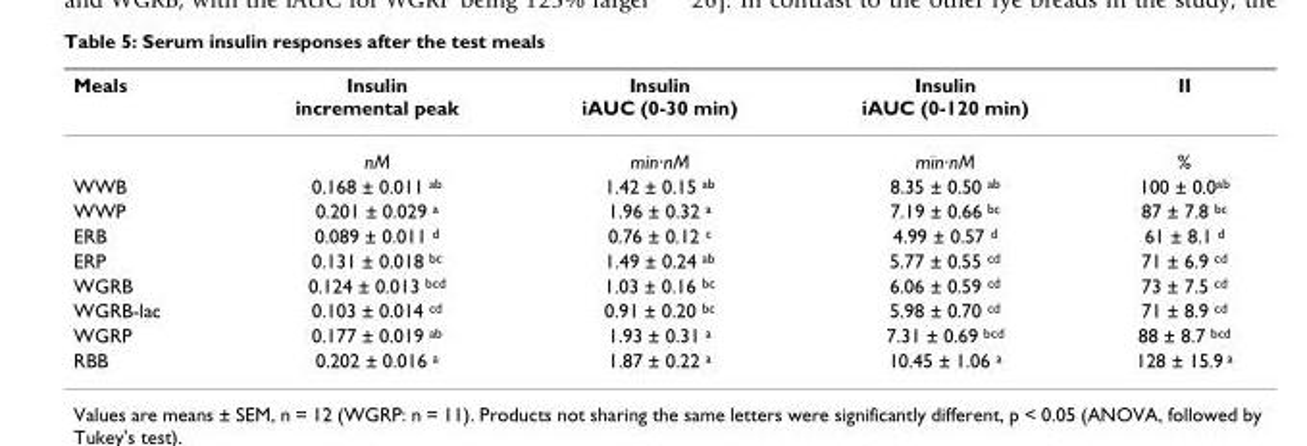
<table><thead><tr><td>Meals</td><td>Insulin incremental peak</td><td>Insulin iAUC (0-30 min)</td><td>Insulin iAUC (0-120 min)</td><td>II</td></tr></thead><tbody><tr><td></td><td>nM</td><td>min·nM</td><td>min·nM</td><td>%</td></tr><tr><td>WWB</td><td>0.168 ± 0.011 <sup>ab</sup></td><td>1.42 ± 0.15 <sup>ab</sup></td><td>8.35 ± 0.50 <sup>ab</sup></td><td>100 ± 0.0<sup>ab</sup></td></tr><tr><td>WWP</td><td>0.201 ± 0.029 <sup>a</sup></td><td>1.96 ± 0.32 <sup>a</sup></td><td>7.19 ± 0.66 <sup>bc</sup></td><td>87 ± 7.8 <sup>bc</sup></td></tr><tr><td>ERB</td><td>0.089 ± 0.011 <sup>d</sup></td><td>0.76 ± 0.12 <sup>c</sup></td><td>4.99 ± 0.57 <sup>d</sup></td><td>61 ± 8.1 <sup>d</sup></td></tr><tr><td>ERP</td><td>0.131 ± 0.018 <sup>bc</sup></td><td>1.49 ± 0.24 <sup>ab</sup></td><td>5.77 ± 0.55 <sup>cd</sup></td><td>71 ± 6.9 <sup>cd</sup></td></tr><tr><td>WGRB</td><td>0.124 ± 0.013 <sup>bcd</sup></td><td>1.03 ± 0.16 <sup>bc</sup></td><td>6.06 ± 0.59 <sup>cd</sup></td><td>73 ± 7.5 <sup>cd</sup></td></tr><tr><td>WGRB-lac</td><td>0.103 ± 0.014 <sup>cd</sup></td><td>0.91 ± 0.20 <sup>bc</sup></td><td>5.98 ± 0.70 <sup>cd</sup></td><td>71 ± 8.9 <sup>cd</sup></td></tr><tr><td>WGRP</td><td>0.177 ± 0.019 <sup>ab</sup></td><td>1.93 ± 0.31 <sup>a</sup></td><td>7.31 ± 0.69 <sup>bcd</sup></td><td>88 ± 8.7 <sup>bcd</sup></td></tr><tr><td>RBB</td><td>0.202 ± 0.016 <sup>a</sup></td><td>1.87 ± 0.22 <sup>a</sup></td><td>10.45 ± 1.06 <sup>a</sup></td><td>128 ± 15.9 <sup>a</sup></td></tr></tbody></table>